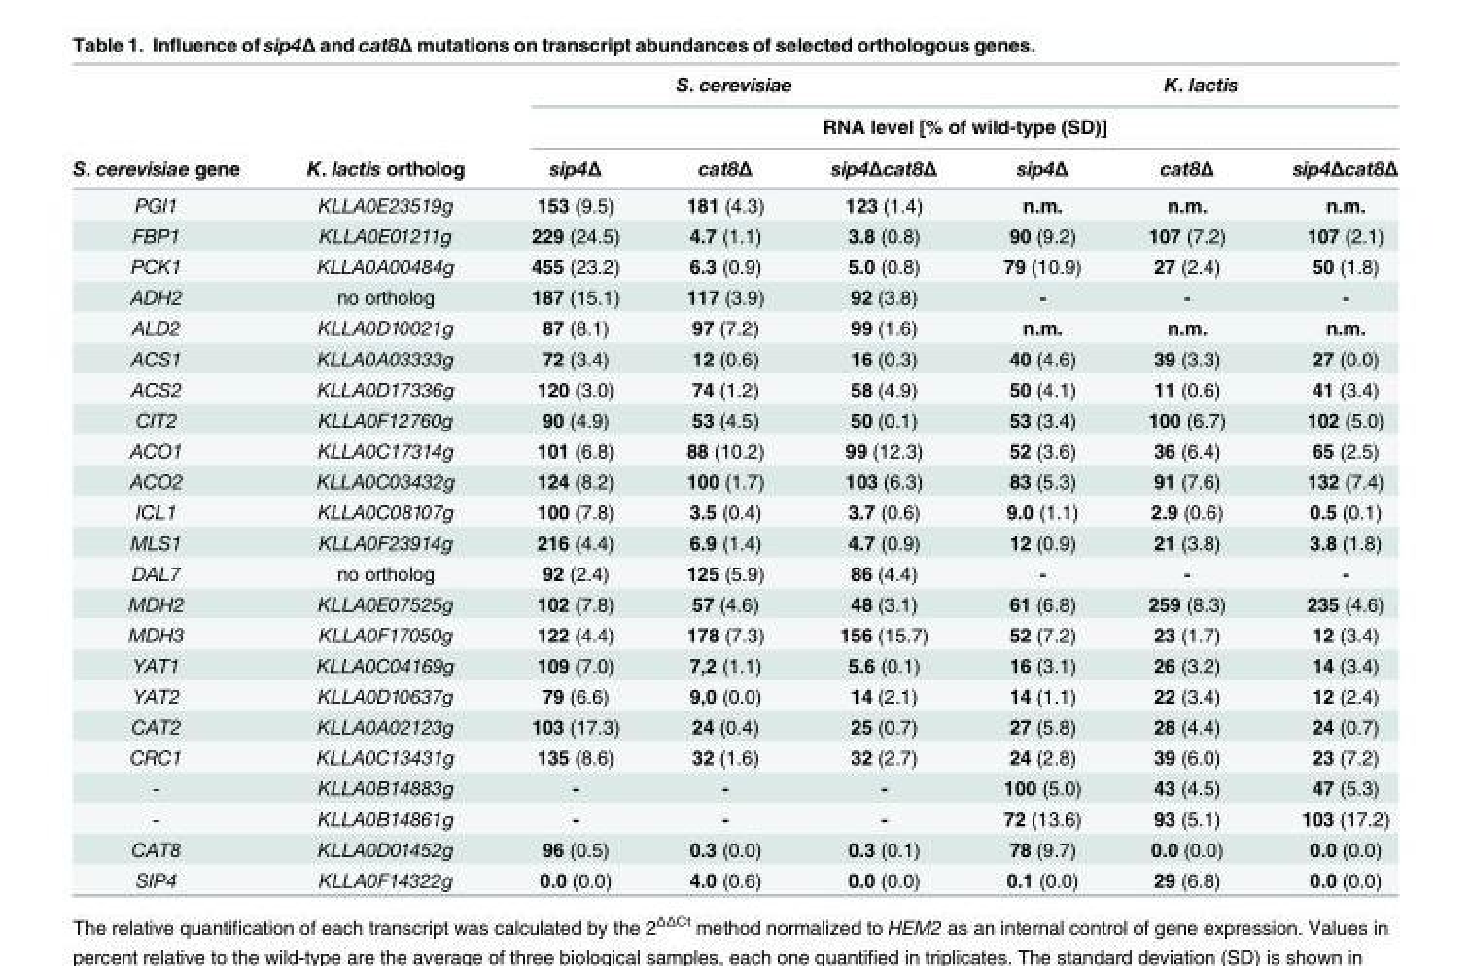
<table><thead><tr><td rowspan="3">S. cerevisiae gene</td><td rowspan="3">K. lactis ortholog</td><td colspan="3">S. cerevisiae</td><td colspan="3">K. lactis</td></tr><tr><td colspan="6">RNA level [% of wild-type (SD)]</td></tr><tr><td>sip4Δ</td><td>cat8Δ</td><td>sip4Δcat8Δ</td><td>sip4Δ</td><td>cat8Δ</td><td>sip4Δcat8Δ</td></tr></thead><tbody><tr><td>PGI1</td><td>KLLA0E23519g</td><td>153 (9.5)</td><td>181 (4.3)</td><td>123 (1.4)</td><td>n.m.</td><td>n.m.</td><td>n.m.</td></tr><tr><td>FBP1</td><td>KLLA0E01211g</td><td>229 (24.5)</td><td>4.7 (1.1)</td><td>3.8 (0.8)</td><td>90 (9.2)</td><td>107 (7.2)</td><td>107 (2.1)</td></tr><tr><td>PCK1</td><td>KLLA0A00484g</td><td>455 (23.2)</td><td>6.3 (0.9)</td><td>5.0 (0.8)</td><td>79 (10.9)</td><td>27 (2.4)</td><td>50 (1.8)</td></tr><tr><td>ADH2</td><td>no ortholog</td><td>187 (15.1)</td><td>117 (3.9)</td><td>92 (3.8)</td><td>-</td><td>-</td><td>-</td></tr><tr><td>ALD2</td><td>KLLA0D10021g</td><td>87 (8.1)</td><td>97 (7.2)</td><td>99 (1.6)</td><td>n.m.</td><td>n.m.</td><td>n.m.</td></tr><tr><td>ACS1</td><td>KLLA0A03333g</td><td>72 (3.4)</td><td>12 (0.6)</td><td>16 (0.3)</td><td>40 (4.6)</td><td>39 (3.3)</td><td>27 (0.0)</td></tr><tr><td>ACS2</td><td>KLLA0D17336g</td><td>120 (3.0)</td><td>74 (1.2)</td><td>58 (4.9)</td><td>50 (4.1)</td><td>11 (0.6)</td><td>41 (3.4)</td></tr><tr><td>CIT2</td><td>KLLA0F12760g</td><td>90 (4.9)</td><td>53 (4.5)</td><td>50 (0.1)</td><td>53 (3.4)</td><td>100 (6.7)</td><td>102 (5.0)</td></tr><tr><td>ACO1</td><td>KLLA0C17314g</td><td>101 (6.8)</td><td>88 (10.2)</td><td>99 (12.3)</td><td>52 (3.6)</td><td>36 (6.4)</td><td>65 (2.5)</td></tr><tr><td>ACO2</td><td>KLLA0C03432g</td><td>124 (8.2)</td><td>100 (1.7)</td><td>103 (6.3)</td><td>83 (5.3)</td><td>91 (7.6)</td><td>132 (7.4)</td></tr><tr><td>ICL1</td><td>KLLA0C08107g</td><td>100 (7.8)</td><td>3.5 (0.4)</td><td>3.7 (0.6)</td><td>9.0 (1.1)</td><td>2.9 (0.6)</td><td>0.5 (0.1)</td></tr><tr><td>MLS1</td><td>KLLA0F23914g</td><td>216 (4.4)</td><td>6.9 (1.4)</td><td>4.7 (0.9)</td><td>12 (0.9)</td><td>21 (3.8)</td><td>3.8 (1.8)</td></tr><tr><td>DAL7</td><td>no ortholog</td><td>92 (2.4)</td><td>125 (5.9)</td><td>86 (4.4)</td><td>-</td><td>-</td><td>-</td></tr><tr><td>MDH2</td><td>KLLA0E07525g</td><td>102 (7.8)</td><td>57 (4.6)</td><td>48 (3.1)</td><td>61 (6.8)</td><td>259 (8.3)</td><td>235 (4.6)</td></tr><tr><td>MDH3</td><td>KLLA0F17050g</td><td>122 (4.4)</td><td>178 (7.3)</td><td>156 (15.7)</td><td>52 (7.2)</td><td>23 (1.7)</td><td>12 (3.4)</td></tr><tr><td>YAT1</td><td>KLLA0C04169g</td><td>109 (7.0)</td><td>7,2 (1.1)</td><td>5.6 (0.1)</td><td>16 (3.1)</td><td>26 (3.2)</td><td>14 (3.4)</td></tr><tr><td>YAT2</td><td>KLLA0D10637g</td><td>79 (6.6)</td><td>9,0 (0.0)</td><td>14 (2.1)</td><td>14 (1.1)</td><td>22 (3.4)</td><td>12 (2.4)</td></tr><tr><td>CAT2</td><td>KLLA0A02123g</td><td>103 (17.3)</td><td>24 (0.4)</td><td>25 (0.7)</td><td>27 (5.8)</td><td>28 (4.4)</td><td>24 (0.7)</td></tr><tr><td>CRC1</td><td>KLLA0C13431g</td><td>135 (8.6)</td><td>32 (1.6)</td><td>32 (2.7)</td><td>24 (2.8)</td><td>39 (6.0)</td><td>23 (7.2)</td></tr><tr><td>-</td><td>KLLA0B14883g</td><td>-</td><td>-</td><td>-</td><td>100 (5.0)</td><td>43 (4.5)</td><td>47 (5.3)</td></tr><tr><td>-</td><td>KLLA0B14861g</td><td>-</td><td>-</td><td>-</td><td>72 (13.6)</td><td>93 (5.1)</td><td>103 (17.2)</td></tr><tr><td>CAT8</td><td>KLLA0D01452g</td><td>96 (0.5)</td><td>0.3 (0.0)</td><td>0.3 (0.1)</td><td>78 (9.7)</td><td>0.0 (0.0)</td><td>0.0 (0.0)</td></tr><tr><td>SIP4</td><td>KLLA0F14322g</td><td>0.0 (0.0)</td><td>4.0 (0.6)</td><td>0.0 (0.0)</td><td>0.1 (0.0)</td><td>29 (6.8)</td><td>0.0 (0.0)</td></tr></tbody></table>